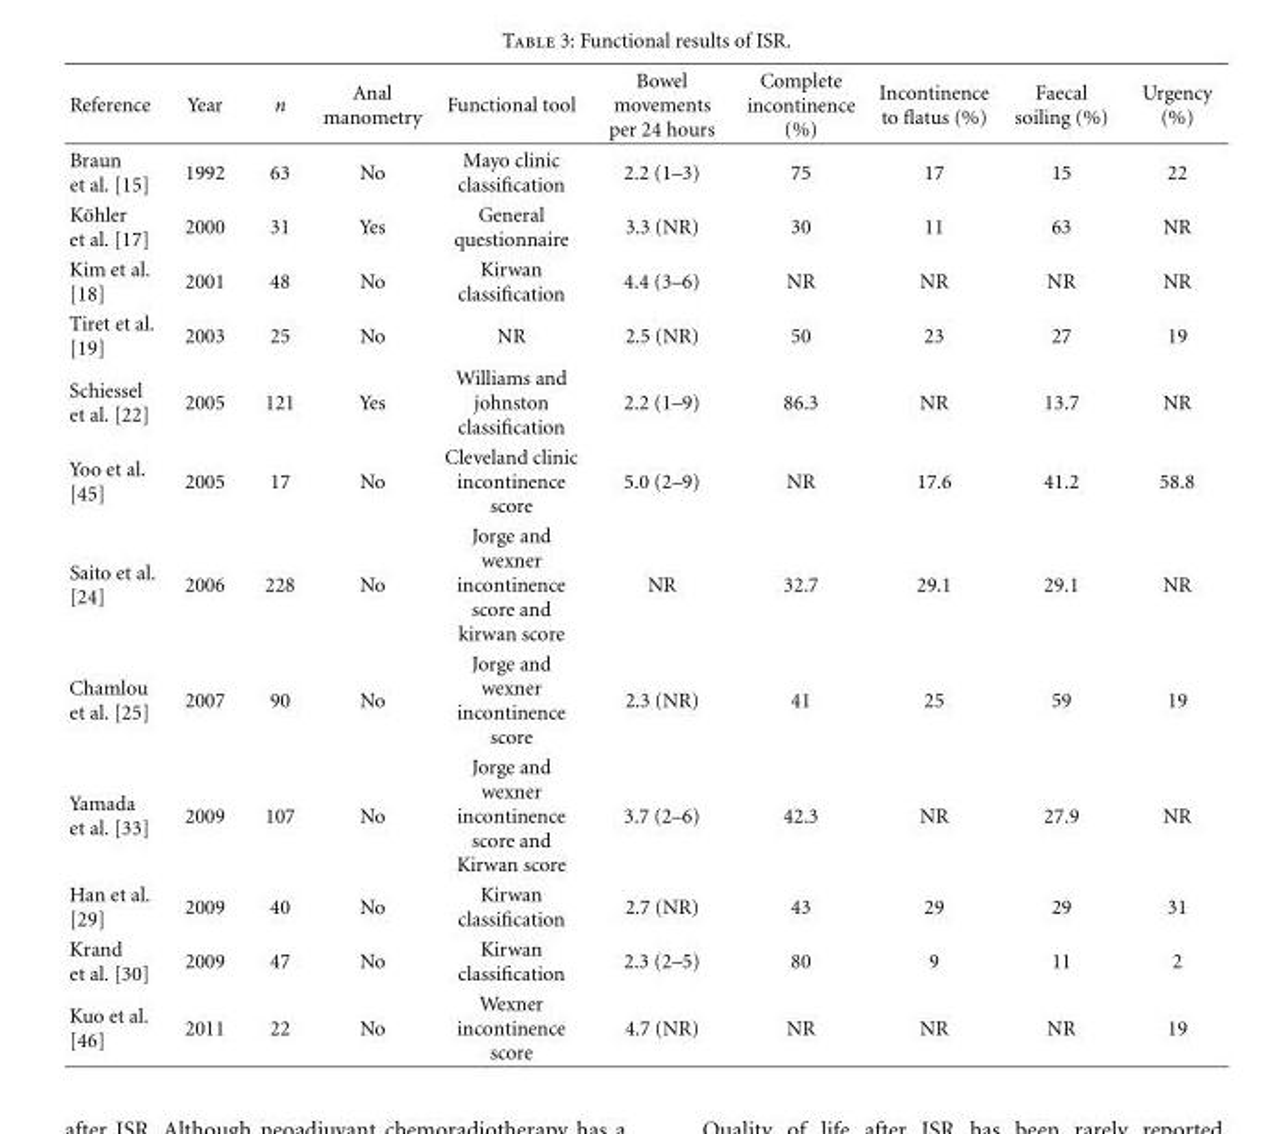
<table><thead><tr><td>Reference</td><td>Year</td><td>n</td><td>Anal manometry</td><td>Functional tool</td><td>Bowel movements per 24 hours</td><td>Complete incontinence (%)</td><td>Incontinence to flatus (%)</td><td>Faecal soiling (%)</td><td>Urgency (%)</td></tr></thead><tbody><tr><td>Braun et al. [15]</td><td>1992</td><td>63</td><td>No</td><td>Mayo clinic classification</td><td>2.2 (1–3)</td><td>75</td><td>17</td><td>15</td><td>22</td></tr><tr><td>K¨ohler et al. [17]</td><td>2000</td><td>31</td><td>Yes</td><td>General questionnaire</td><td>3.3 (NR)</td><td>30</td><td>11</td><td>63</td><td>NR</td></tr><tr><td>Kim et al. [18]</td><td>2001</td><td>48</td><td>No</td><td>Kirwan classification</td><td>4.4 (3–6)</td><td>NR</td><td>NR</td><td>NR</td><td>NR</td></tr><tr><td>Tiret et al. [19]</td><td>2003</td><td>25</td><td>No</td><td>NR</td><td>2.5 (NR)</td><td>50</td><td>23</td><td>27</td><td>19</td></tr><tr><td>Schiessel et al. [22]</td><td>2005</td><td>121</td><td>Yes</td><td>Williams and johnston classification</td><td>2.2 (1–9)</td><td>86.3</td><td>NR</td><td>13.7</td><td>NR</td></tr><tr><td>Yoo et al. [45]</td><td>2005</td><td>17</td><td>No</td><td>Cleveland clinic incontinence score</td><td>5.0 (2–9)</td><td>NR</td><td>17.6</td><td>41.2</td><td>58.8</td></tr><tr><td>Saito et al. [24]</td><td>2006</td><td>228</td><td>No</td><td>Jorge and wexner incontinence score and kirwan score</td><td>NR</td><td>32.7</td><td>29.1</td><td>29.1</td><td>NR</td></tr><tr><td>Chamlou et al. [25]</td><td>2007</td><td>90</td><td>No</td><td>Jorge and wexner incontinence score</td><td>2.3 (NR)</td><td>41</td><td>25</td><td>59</td><td>19</td></tr><tr><td>Yamada et al. [33]</td><td>2009</td><td>107</td><td>No</td><td>Jorge and wexner incontinence score and Kirwan score</td><td>3.7 (2–6)</td><td>42.3</td><td>NR</td><td>27.9</td><td>NR</td></tr><tr><td>Han et al. [29]</td><td>2009</td><td>40</td><td>No</td><td>Kirwan classification</td><td>2.7 (NR)</td><td>43</td><td>29</td><td>29</td><td>31</td></tr><tr><td>Krand et al. [30]</td><td>2009</td><td>47</td><td>No</td><td>Kirwan classification</td><td>2.3 (2–5)</td><td>80</td><td>9</td><td>11</td><td>2</td></tr><tr><td>Kuo et al. [46]</td><td>2011</td><td>22</td><td>No</td><td>Wexner incontinence score</td><td>4.7 (NR)</td><td>NR</td><td>NR</td><td>NR</td><td>19</td></tr></tbody></table>